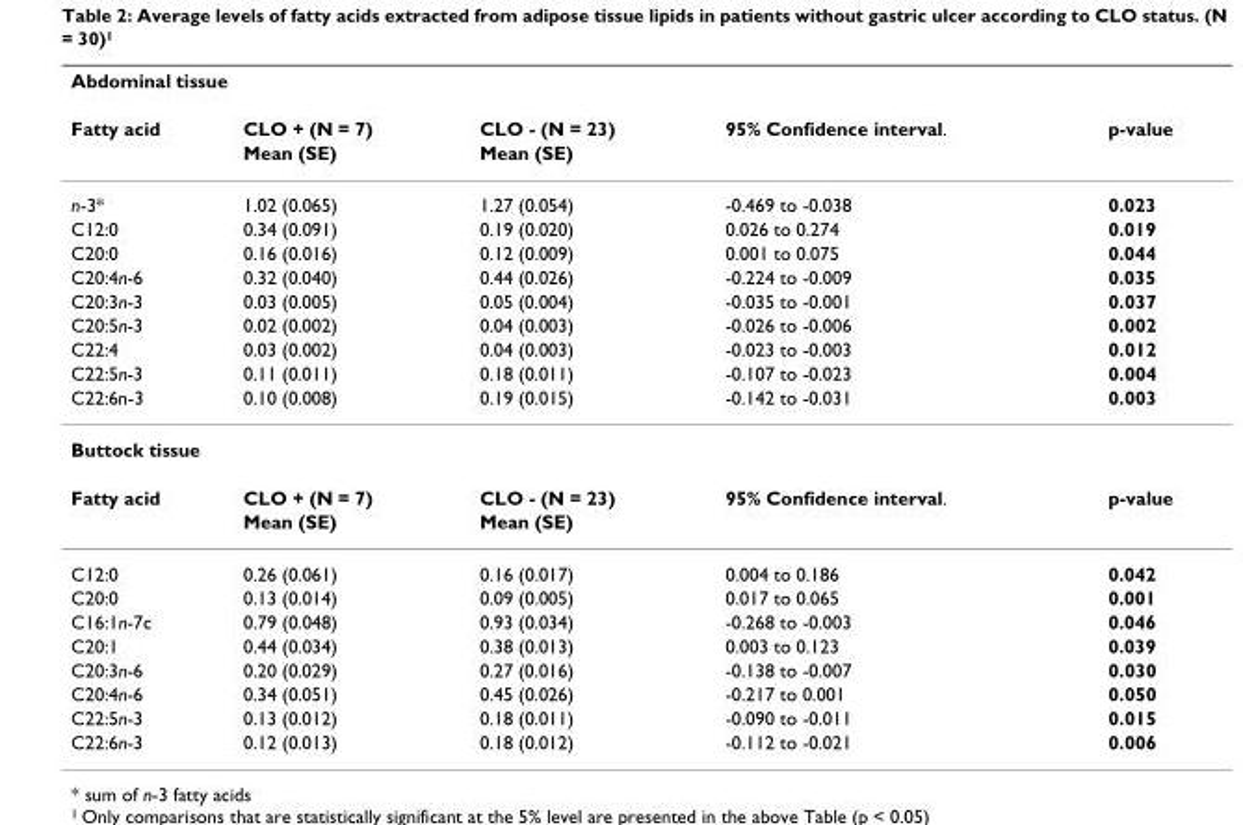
<table><thead><tr><td colspan="5">Abdominal tissue</td></tr><tr><td rowspan="2">Fatty acid</td><td rowspan="2">CLO + (N = 7) Mean (SE)</td><td rowspan="2">CLO - (N = 23) Mean (SE)</td><td rowspan="2">95% Confidence interval.</td><td rowspan="2">p-value</td></tr><tr></tr></thead><tbody><tr><td>n-3*</td><td>1.02 (0.065)</td><td>1.27 (0.054)</td><td>-0.469 to -0.038</td><td>0.023</td></tr><tr><td>C12:0</td><td>0.34 (0.091)</td><td>0.19 (0.020)</td><td>0.026 to 0.274</td><td>0.019</td></tr><tr><td>C20:0</td><td>0.16 (0.016)</td><td>0.12 (0.009)</td><td>0.001 to 0.075</td><td>0.044</td></tr><tr><td>C20:4n-6</td><td>0.32 (0.040)</td><td>0.44 (0.026)</td><td>-0.224 to -0.009</td><td>0.035</td></tr><tr><td>C20:3n-3</td><td>0.03 (0.005)</td><td>0.05 (0.004)</td><td>-0.035 to -0.001</td><td>0.037</td></tr><tr><td>C20:5n-3</td><td>0.02 (0.002)</td><td>0.04 (0.003)</td><td>-0.026 to -0.006</td><td>0.002</td></tr><tr><td>C22:4</td><td>0.03 (0.002)</td><td>0.04 (0.003)</td><td>-0.023 to -0.003</td><td>0.012</td></tr><tr><td>C22:5n-3</td><td>0.11 (0.011)</td><td>0.18 (0.011)</td><td>-0.107 to -0.023</td><td>0.004</td></tr><tr><td>C22:6n-3</td><td>0.10 (0.008)</td><td>0.19 (0.015)</td><td>-0.142 to -0.031</td><td>0.003</td></tr><tr><td colspan="5">Buttock tissue</td></tr><tr><td rowspan="2">Fatty acid</td><td>CLO + (N = 7)</td><td>CLO - (N = 23)</td><td>95% Confidence interval.</td><td>p-value</td></tr><tr><td>Mean (SE)</td><td>Mean (SE)</td><td></td><td></td></tr><tr><td>C12:0</td><td>0.26 (0.061)</td><td>0.16 (0.017)</td><td>0.004 to 0.186</td><td>0.042</td></tr><tr><td>C20:0</td><td>0.13 (0.014)</td><td>0.09 (0.005)</td><td>0.017 to 0.065</td><td>0.001</td></tr><tr><td>C16:1n-7c</td><td>0.79 (0.048)</td><td>0.93 (0.034)</td><td>-0.268 to -0.003</td><td>0.046</td></tr><tr><td>C20:1</td><td>0.44 (0.034)</td><td>0.38 (0.013)</td><td>0.003 to 0.123</td><td>0.039</td></tr><tr><td>C20:3n-6</td><td>0.20 (0.029)</td><td>0.27 (0.016)</td><td>-0.138 to -0.007</td><td>0.030</td></tr><tr><td>C20:4n-6</td><td>0.34 (0.051)</td><td>0.45 (0.026)</td><td>-0.217 to 0.001</td><td>0.050</td></tr><tr><td>C22:5n-3</td><td>0.13 (0.012)</td><td>0.18 (0.011)</td><td>-0.090 to -0.011</td><td>0.015</td></tr><tr><td>C22:6n-3</td><td>0.12 (0.013)</td><td>0.18 (0.012)</td><td>-0.112 to -0.021</td><td>0.006</td></tr></tbody></table>